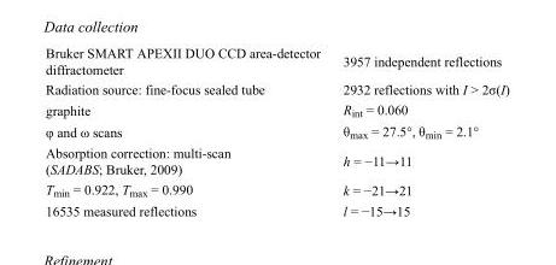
<table><tbody><tr><td>Bruker SMART APEXII DUO CCD area-detector diffractometer</td><td>3957 independent reflections</td></tr><tr><td>Radiation source: fine-focus sealed tube</td><td>2932 reflections with I &gt; 2σ(I)</td></tr><tr><td>graphite</td><td>R<sub>int</sub> = 0.060</td></tr><tr><td>φ and ω scans</td><td>θ<sub>max</sub> = 27.5°, θ<sub>min</sub> = 2.1°</td></tr><tr><td>Absorption correction: multi-scan (SADABS; Bruker, 2009)</td><td>h = −11→11</td></tr><tr><td>T<sub>min</sub> = 0.922, T<sub>max</sub> = 0.990</td><td>k = −21→21</td></tr><tr><td>16535 measured reflections</td><td>l = −15→15</td></tr></tbody></table>